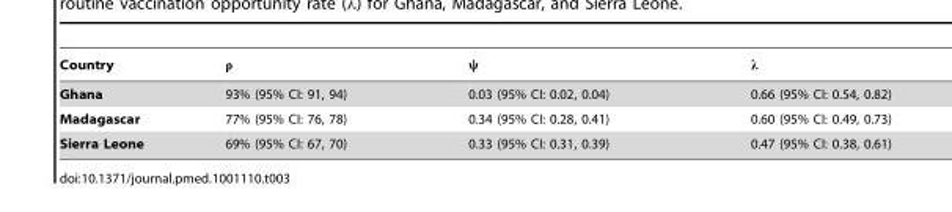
<table><thead><tr><td>Country</td><td>ρ</td><td>ψ</td><td>λ</td></tr></thead><tbody><tr><td>Ghana</td><td>93% (95% CI: 91, 94)</td><td>0.03 (95% CI: 0.02, 0.04)</td><td>0.66 (95% CI: 0.54, 0.82)</td></tr><tr><td>Madagascar</td><td>77% (95% CI: 76, 78)</td><td>0.34 (95% CI: 0.28, 0.41)</td><td>0.60 (95% CI: 0.49, 0.73)</td></tr><tr><td>Sierra Leone</td><td>69% (95% CI: 67, 70)</td><td>0.33 (95% CI: 0.31, 0.39)</td><td>0.47 (95% CI: 0.38, 0.61)</td></tr></tbody></table>